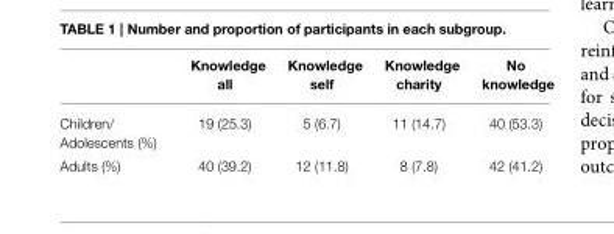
<table><thead><tr><td></td><td>Knowledge all</td><td>Knowledge self</td><td>Knowledge charity</td><td>No knowledge</td></tr></thead><tbody><tr><td>Children/ Adolescents (%)</td><td>19 (25.3)</td><td>5 (6.7)</td><td>11 (14.7)</td><td>40 (53.3)</td></tr><tr><td>Adults (%)</td><td>40 (39.2)</td><td>12 (11.8)</td><td>8 (7.8)</td><td>42 (41.2)</td></tr></tbody></table>